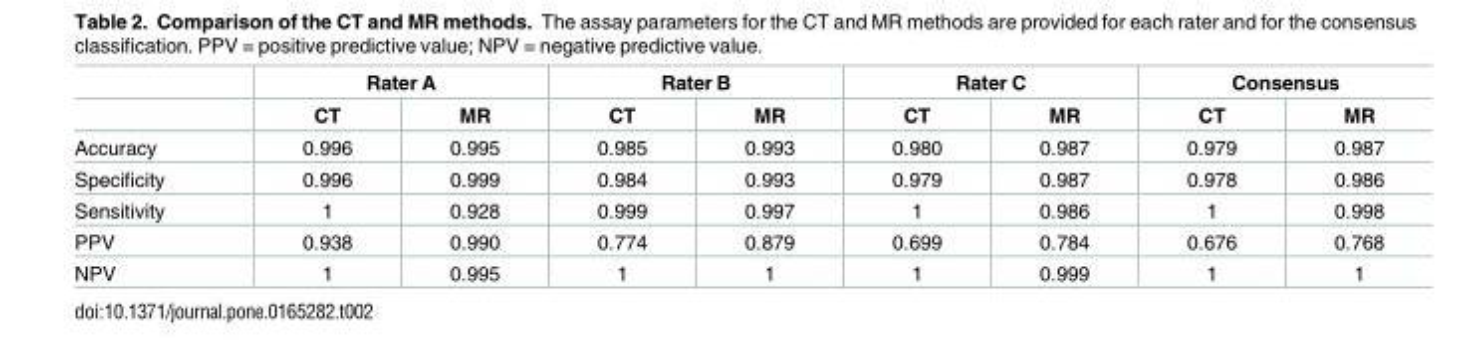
<table><thead><tr><td rowspan="2"></td><td colspan="2">Rater A</td><td colspan="2">Rater B</td><td colspan="2">Rater C</td><td colspan="2">Consensus</td></tr><tr><td>CT</td><td>MR</td><td>CT</td><td>MR</td><td>CT</td><td>MR</td><td>CT</td><td>MR</td></tr></thead><tbody><tr><td>Accuracy</td><td>0.996</td><td>0.995</td><td>0.985</td><td>0.993</td><td>0.980</td><td>0.987</td><td>0.979</td><td>0.987</td></tr><tr><td>Specificity</td><td>0.996</td><td>0.999</td><td>0.984</td><td>0.993</td><td>0.979</td><td>0.987</td><td>0.978</td><td>0.986</td></tr><tr><td>Sensitivity</td><td>1</td><td>0.928</td><td>0.999</td><td>0.997</td><td>1</td><td>0.986</td><td>1</td><td>0.998</td></tr><tr><td>PPV</td><td>0.938</td><td>0.990</td><td>0.774</td><td>0.879</td><td>0.699</td><td>0.784</td><td>0.676</td><td>0.768</td></tr><tr><td>NPV</td><td>1</td><td>0.995</td><td>1</td><td>1</td><td>1</td><td>0.999</td><td>1</td><td>1</td></tr></tbody></table>